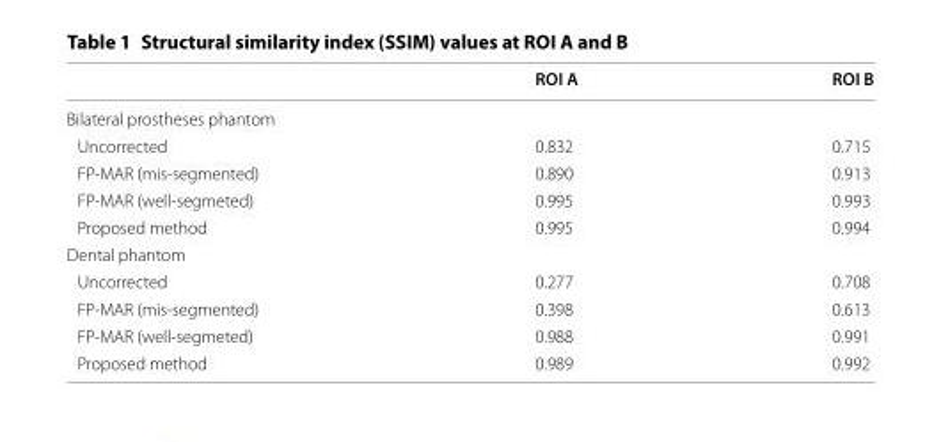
<table><thead><tr><td></td><td>ROI A</td><td>ROI B</td></tr></thead><tbody><tr><td colspan="3">Bilateral prostheses phantom</td></tr><tr><td>Uncorrected</td><td>0.832</td><td>0.715</td></tr><tr><td>FP-MAR (mis-segmented)</td><td>0.890</td><td>0.913</td></tr><tr><td>FP-MAR (well-segmeted)</td><td>0.995</td><td>0.993</td></tr><tr><td>Proposed method</td><td>0.995</td><td>0.994</td></tr><tr><td colspan="3">Dental phantom</td></tr><tr><td>Uncorrected</td><td>0.277</td><td>0.708</td></tr><tr><td>FP-MAR (mis-segmented)</td><td>0.398</td><td>0.613</td></tr><tr><td>FP-MAR (well-segmeted)</td><td>0.988</td><td>0.991</td></tr><tr><td>Proposed method</td><td>0.989</td><td>0.992</td></tr></tbody></table>